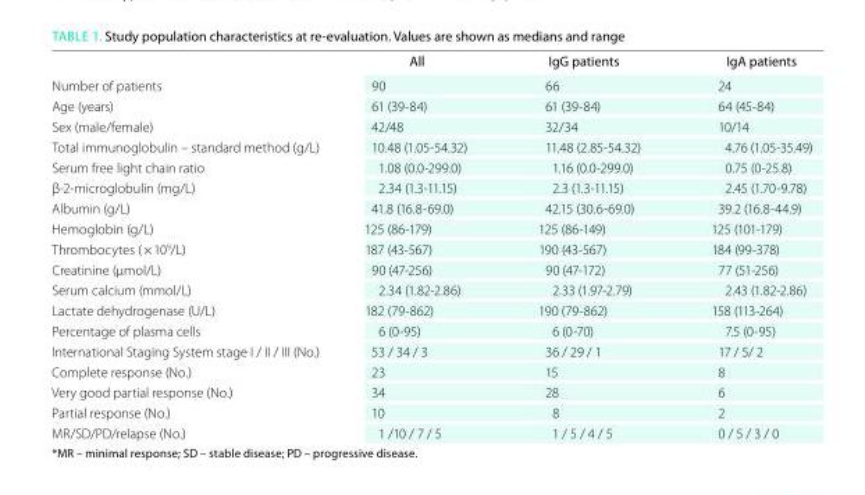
<table><thead><tr><td></td><td>all</td><td>IgG patients</td><td>Iga patients</td></tr></thead><tbody><tr><td>Number of patients</td><td>90</td><td>66</td><td>24</td></tr><tr><td>Age (years)</td><td>61 (39-84)</td><td>61 (39-84)</td><td>64 (45-84)</td></tr><tr><td>Sex (male/female)</td><td>42/48</td><td>32/34</td><td>10/14</td></tr><tr><td>Total immunoglobulin – standard method (g/L)</td><td>10.48 (1.05-54.32)</td><td>11.48 (2.85-54.32)</td><td>4.76 (1.05-35.49)</td></tr><tr><td>Serum free light chain ratio</td><td>1.08 (0.0-299.0)</td><td>1.16 (0.0-299.0)</td><td>0.75 (0-25.8)</td></tr><tr><td>β-2-microglobulin (mg/L)</td><td>2.34 (1.3-11.15)</td><td>2.3 (1.3-11.15)</td><td>2.45 (1.70-9.78)</td></tr><tr><td>Albumin (g/L)</td><td>41.8 (16.8-69.0)</td><td>42.15 (30.6-69.0)</td><td>39.2 (16.8-44.9)</td></tr><tr><td>Hemoglobin (g/L)</td><td>125 (86-179)</td><td>125 (86-149)</td><td>125 (101-179)</td></tr><tr><td>Thrombocytes ( × 10<sup>9</sup>/L)</td><td>187 (43-567)</td><td>190 (43-567)</td><td>184 (99-378)</td></tr><tr><td>Creatinine (µmol/L)</td><td>90 (47-256)</td><td>90 (47-172)</td><td>77 (51-256)</td></tr><tr><td>Serum calcium (mmol/L)</td><td>2.34 (1.82-2.86)</td><td>2.33 (1.97-2.79)</td><td>2.43 (1.82-2.86)</td></tr><tr><td>Lactate dehydrogenase (U/L)</td><td>182 (79-862)</td><td>190 (79-862)</td><td>158 (113-264)</td></tr><tr><td>Percentage of plasma cells</td><td>6 (0-95)</td><td>6 (0-70)</td><td>7.5 (0-95)</td></tr><tr><td>International Staging System stage I / II / III (No.)</td><td>53 / 34 / 3</td><td>36 / 29 / 1</td><td>17 / 5/ 2</td></tr><tr><td>Complete response (No.)</td><td>23</td><td>15</td><td>8</td></tr><tr><td>Very good partial response (No.)</td><td>34</td><td>28</td><td>6</td></tr><tr><td>Partial response (No.)</td><td>10</td><td>8</td><td>2</td></tr><tr><td>MR/SD/PD/relapse (No.)</td><td>1 /10 / 7 / 5</td><td>1 / 5 / 4 / 5</td><td>0 / 5 / 3 / 0</td></tr></tbody></table>